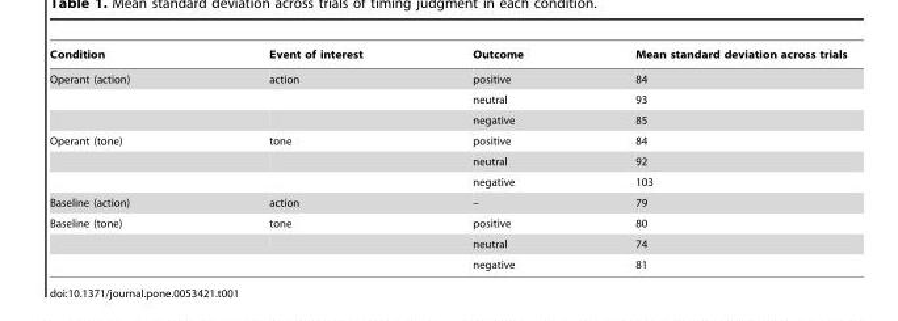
<table><thead><tr><td>Condition</td><td>Event of interest</td><td>Outcome</td><td>Mean standard deviation across trials</td></tr></thead><tbody><tr><td rowspan="3">Operant (action)</td><td>action</td><td>positive</td><td>84</td></tr><tr><td></td><td>neutral</td><td>93</td></tr><tr><td></td><td>negative</td><td>85</td></tr><tr><td rowspan="3">Operant (tone)</td><td>tone</td><td>positive</td><td>84</td></tr><tr><td></td><td>neutral</td><td>92</td></tr><tr><td></td><td>negative</td><td>103</td></tr><tr><td>Baseline (action)</td><td>action</td><td>–</td><td>79</td></tr><tr><td rowspan="3">Baseline (tone)</td><td>tone</td><td>positive</td><td>80</td></tr><tr><td></td><td>neutral</td><td>74</td></tr><tr><td></td><td>negative</td><td>81</td></tr></tbody></table>